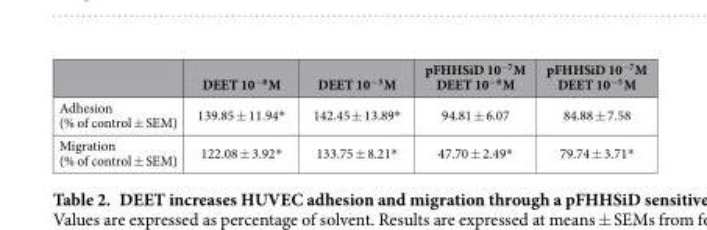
<table><thead><tr><td></td><td>DEET 10<sup>−8</sup> M</td><td>DEET 10<sup>−5</sup> M</td><td>pFHHSiD 10<sup>−7</sup> M DEET 10<sup>−8</sup> M</td><td>pFHHSiD 10<sup>−7</sup> M DEET 10<sup>−5</sup> M</td></tr></thead><tbody><tr><td>Adhesion (% of control ± SEM)</td><td>139.85 ± 11.94*</td><td>142.45 ± 13.89*</td><td>94.81 ± 6.07</td><td>84.88 ± 7.58</td></tr><tr><td>Migration (% of control ± SEM)</td><td>122.08 ± 3.92*</td><td>133.75 ± 8.21*</td><td>47.70 ± 2.49*</td><td>79.74 ± 3.71*</td></tr></tbody></table>